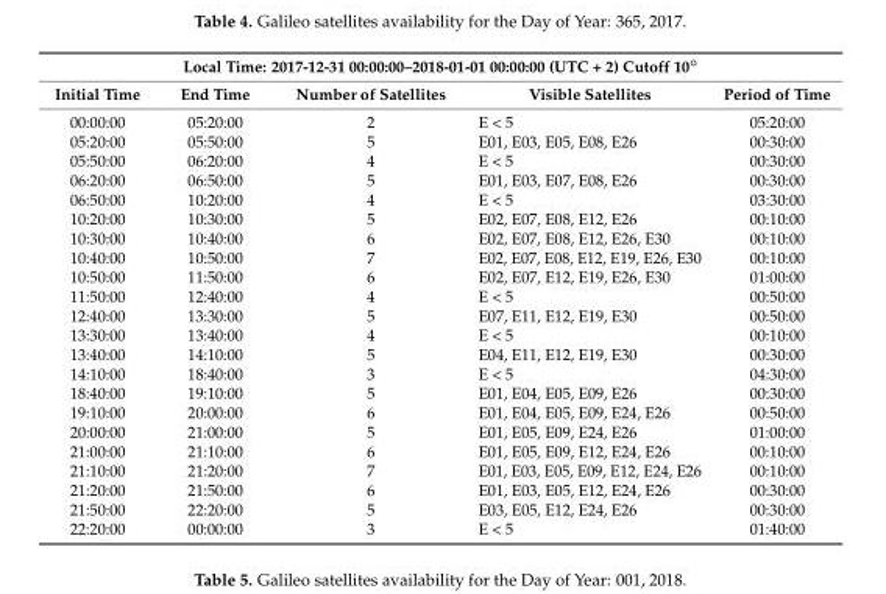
<table><thead><tr><td colspan="5">Local Time: 2017-12-31 00:00:00–2018-01-01 00:00:00 (UTC + 2) Cutoff 10◦</td></tr><tr><td>Initial Time</td><td>End Time</td><td>Number of Satellites</td><td>Visible Satellites</td><td>Period of Time</td></tr></thead><tbody><tr><td>00:00:00</td><td>05:20:00</td><td>2</td><td>E &lt; 5</td><td>05:20:00</td></tr><tr><td>05:20:00</td><td>05:50:00</td><td>5</td><td>E01, E03, E05, E08, E26</td><td>00:30:00</td></tr><tr><td>05:50:00</td><td>06:20:00</td><td>4</td><td>E &lt; 5</td><td>00:30:00</td></tr><tr><td>06:20:00</td><td>06:50:00</td><td>5</td><td>E01, E03, E07, E08, E26</td><td>00:30:00</td></tr><tr><td>06:50:00</td><td>10:20:00</td><td>4</td><td>E &lt; 5</td><td>03:30:00</td></tr><tr><td>10:20:00</td><td>10:30:00</td><td>5</td><td>E02, E07, E08, E12, E26</td><td>00:10:00</td></tr><tr><td>10:30:00</td><td>10:40:00</td><td>6</td><td>E02, E07, E08, E12, E26, E30</td><td>00:10:00</td></tr><tr><td>10:40:00</td><td>10:50:00</td><td>7</td><td>E02, E07, E08, E12, E19, E26, E30</td><td>00:10:00</td></tr><tr><td>10:50:00</td><td>11:50:00</td><td>6</td><td>E02, E07, E12, E19, E26, E30</td><td>01:00:00</td></tr><tr><td>11:50:00</td><td>12:40:00</td><td>4</td><td>E &lt; 5</td><td>00:50:00</td></tr><tr><td>12:40:00</td><td>13:30:00</td><td>5</td><td>E07, E11, E12, E19, E30</td><td>00:50:00</td></tr><tr><td>13:30:00</td><td>13:40:00</td><td>4</td><td>E &lt; 5</td><td>00:10:00</td></tr><tr><td>13:40:00</td><td>14:10:00</td><td>5</td><td>E04, E11, E12, E19, E30</td><td>00:30:00</td></tr><tr><td>14:10:00</td><td>18:40:00</td><td>3</td><td>E &lt; 5</td><td>04:30:00</td></tr><tr><td>18:40:00</td><td>19:10:00</td><td>5</td><td>E01, E04, E05, E09, E26</td><td>00:30:00</td></tr><tr><td>19:10:00</td><td>20:00:00</td><td>6</td><td>E01, E04, E05, E09, E24, E26</td><td>00:50:00</td></tr><tr><td>20:00:00</td><td>21:00:00</td><td>5</td><td>E01, E05, E09, E24, E26</td><td>01:00:00</td></tr><tr><td>21:00:00</td><td>21:10:00</td><td>6</td><td>E01, E05, E09, E12, E24, E26</td><td>00:10:00</td></tr><tr><td>21:10:00</td><td>21:20:00</td><td>7</td><td>E01, E03, E05, E09, E12, E24, E26</td><td>00:10:00</td></tr><tr><td>21:20:00</td><td>21:50:00</td><td>6</td><td>E01, E03, E05, E12, E24, E26</td><td>00:30:00</td></tr><tr><td>21:50:00</td><td>22:20:00</td><td>5</td><td>E03, E05, E12, E24, E26</td><td>00:30:00</td></tr><tr><td>22:20:00</td><td>00:00:00</td><td>3</td><td>E &lt; 5</td><td>01:40:00</td></tr></tbody></table>